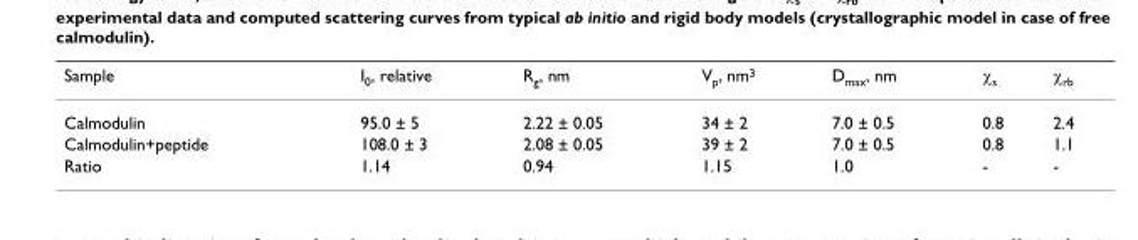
<table><thead><tr><td>Sample</td><td>I<sub>0</sub>, relative</td><td>R<sub>g</sub>, nm</td><td>V<sub>p</sub>, nm<sup>3</sup></td><td>D<sub>max</sub>, nm</td><td>χ<sub>s</sub></td><td>χ<sub>rb</sub></td></tr></thead><tbody><tr><td>Calmodulin</td><td>95.0 ± 5</td><td>2.22 ± 0.05</td><td>34 ± 2</td><td>7.0 ± 0.5</td><td>0.8</td><td>2.4</td></tr><tr><td>Calmodulin+peptide</td><td>108.0 ± 3</td><td>2.08 ± 0.05</td><td>39 ± 2</td><td>7.0 ± 0.5</td><td>0.8</td><td>1.1</td></tr><tr><td>Ratio</td><td>1.14</td><td>0.94</td><td>1.15</td><td>1.0</td><td>-</td><td>-</td></tr></tbody></table>